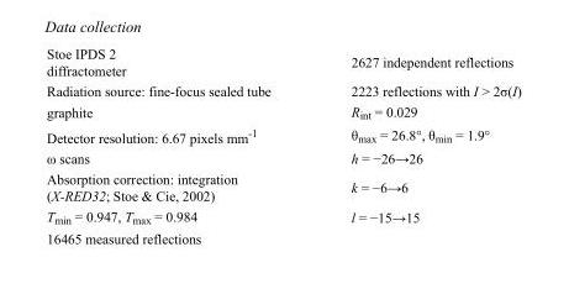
<table><tbody><tr><td>Stoe IPDS 2 diffractometer</td><td>2627 independent reflections</td></tr><tr><td>Radiation source: fine-focus sealed tube</td><td>2223 reflections with I &gt; 2σ(I)</td></tr><tr><td>graphite</td><td>R<sub>int</sub> = 0.029</td></tr><tr><td>Detector resolution: 6.67 pixels mm<sup>-1</sup></td><td>θ<sub>max</sub> = 26.8°, θ<sub>min</sub> = 1.9°</td></tr><tr><td>ω scans</td><td>h = −26→26</td></tr><tr><td>Absorption correction: integration (X-RED32; Stoe &amp; Cie, 2002)</td><td>k = −6→6</td></tr><tr><td>T<sub>min</sub> = 0.947, T<sub>max</sub> = 0.984</td><td>l = −15→15</td></tr><tr><td>16465 measured reflections</td><td></td></tr></tbody></table>